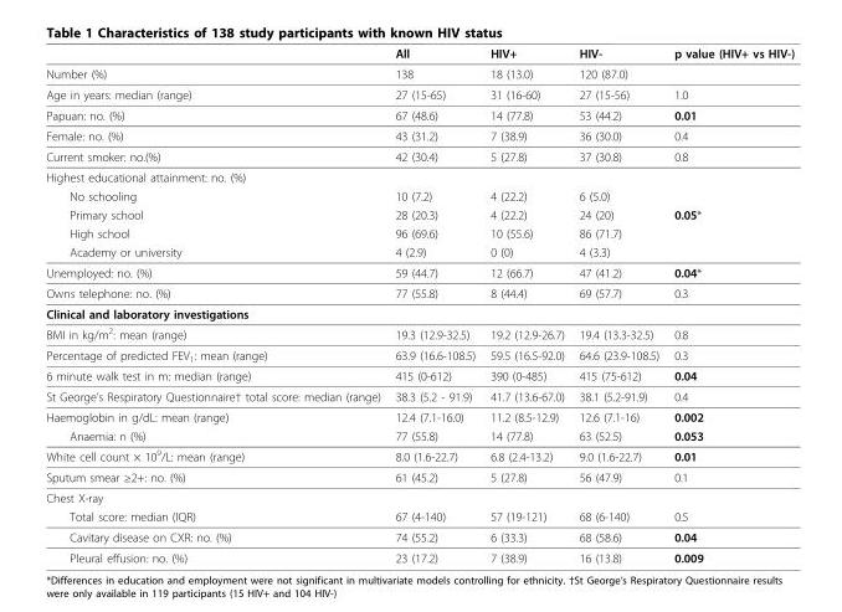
<table><thead><tr><td></td><td>All</td><td>HIV+</td><td>HIV-</td><td>p value (HIV+ vs HIV-)</td></tr></thead><tbody><tr><td>Number (%)</td><td>138</td><td>18 (13.0)</td><td>120 (87.0)</td><td></td></tr><tr><td>Age in years: median (range)</td><td>27 (15-65)</td><td>31 (16-60)</td><td>27 (15-56)</td><td>1.0</td></tr><tr><td>Papuan: no. (%)</td><td>67 (48.6)</td><td>14 (77.8)</td><td>53 (44.2)</td><td>0.01</td></tr><tr><td>Female: no. (%)</td><td>43 (31.2)</td><td>7 (38.9)</td><td>36 (30.0)</td><td>0.4</td></tr><tr><td>Current smoker: no.(%)</td><td>42 (30.4)</td><td>5 (27.8)</td><td>37 (30.8)</td><td>0.8</td></tr><tr><td colspan="5">Highest educational attainment: no. (%)</td></tr><tr><td>No schooling</td><td>10 (7.2)</td><td>4 (22.2)</td><td>6 (5.0)</td><td></td></tr><tr><td>Primary school</td><td>28 (20.3)</td><td>4 (22.2)</td><td>24 (20)</td><td>0.05*</td></tr><tr><td>High school</td><td>96 (69.6)</td><td>10 (55.6)</td><td>86 (71.7)</td><td></td></tr><tr><td>Academy or university</td><td>4 (2.9)</td><td>0 (0)</td><td>4 (3.3)</td><td></td></tr><tr><td>Unemployed: no. (%)</td><td>59 (44.7)</td><td>12 (66.7)</td><td>47 (41.2)</td><td>0.04*</td></tr><tr><td>Owns telephone: no. (%)</td><td>77 (55.8)</td><td>8 (44.4)</td><td>69 (57.7)</td><td>0.3</td></tr><tr><td colspan="5">Clinical and laboratory investigations</td></tr><tr><td>BMI in kg/m<sup>2</sup>: mean (range)</td><td>19.3 (12.9-32.5)</td><td>19.2 (12.9-26.7)</td><td>19.4 (13.3-32.5)</td><td>0.8</td></tr><tr><td>Percentage of predicted FEV<sub>1</sub>: mean (range)</td><td>63.9 (16.6-108.5)</td><td>59.5 (16.5-92.0)</td><td>64.6 (23.9-108.5)</td><td>0.3</td></tr><tr><td>6 minute walk test in m: median (range)</td><td>415 (0-612)</td><td>390 (0-485)</td><td>415 (75-612)</td><td>0.04</td></tr><tr><td>St George’s Respiratory Questionnaire† total score: median (range)</td><td>38.3 (5.2 - 91.9)</td><td>41.7 (13.6-67.0)</td><td>38.1 (5.2-91.9)</td><td>0.4</td></tr><tr><td>Haemoglobin in g/dL: mean (range)</td><td>12.4 (7.1-16.0)</td><td>11.2 (8.5-12.9)</td><td>12.6 (7.1-16)</td><td>0.002</td></tr><tr><td>Anaemia: n (%)</td><td>77 (55.8)</td><td>14 (77.8)</td><td>63 (52.5)</td><td>0.053</td></tr><tr><td>White cell count × 10<sup>9</sup>/L: mean (range)</td><td>8.0 (1.6-22.7)</td><td>6.8 (2.4-13.2)</td><td>9.0 (1.6-22.7)</td><td>0.01</td></tr><tr><td>Sputum smear ≥2+: no. (%)</td><td>61 (45.2)</td><td>5 (27.8)</td><td>56 (47.9)</td><td>0.1</td></tr><tr><td colspan="5">Chest X-ray</td></tr><tr><td>Total score: median (IQR)</td><td>67 (4-140)</td><td>57 (19-121)</td><td>68 (6-140)</td><td>0.5</td></tr><tr><td>Cavitary disease on CXR: no. (%)</td><td>74 (55.2)</td><td>6 (33.3)</td><td>68 (58.6)</td><td>0.04</td></tr><tr><td>Pleural effusion: no. (%)</td><td>23 (17.2)</td><td>7 (38.9)</td><td>16 (13.8)</td><td>0.009</td></tr></tbody></table>